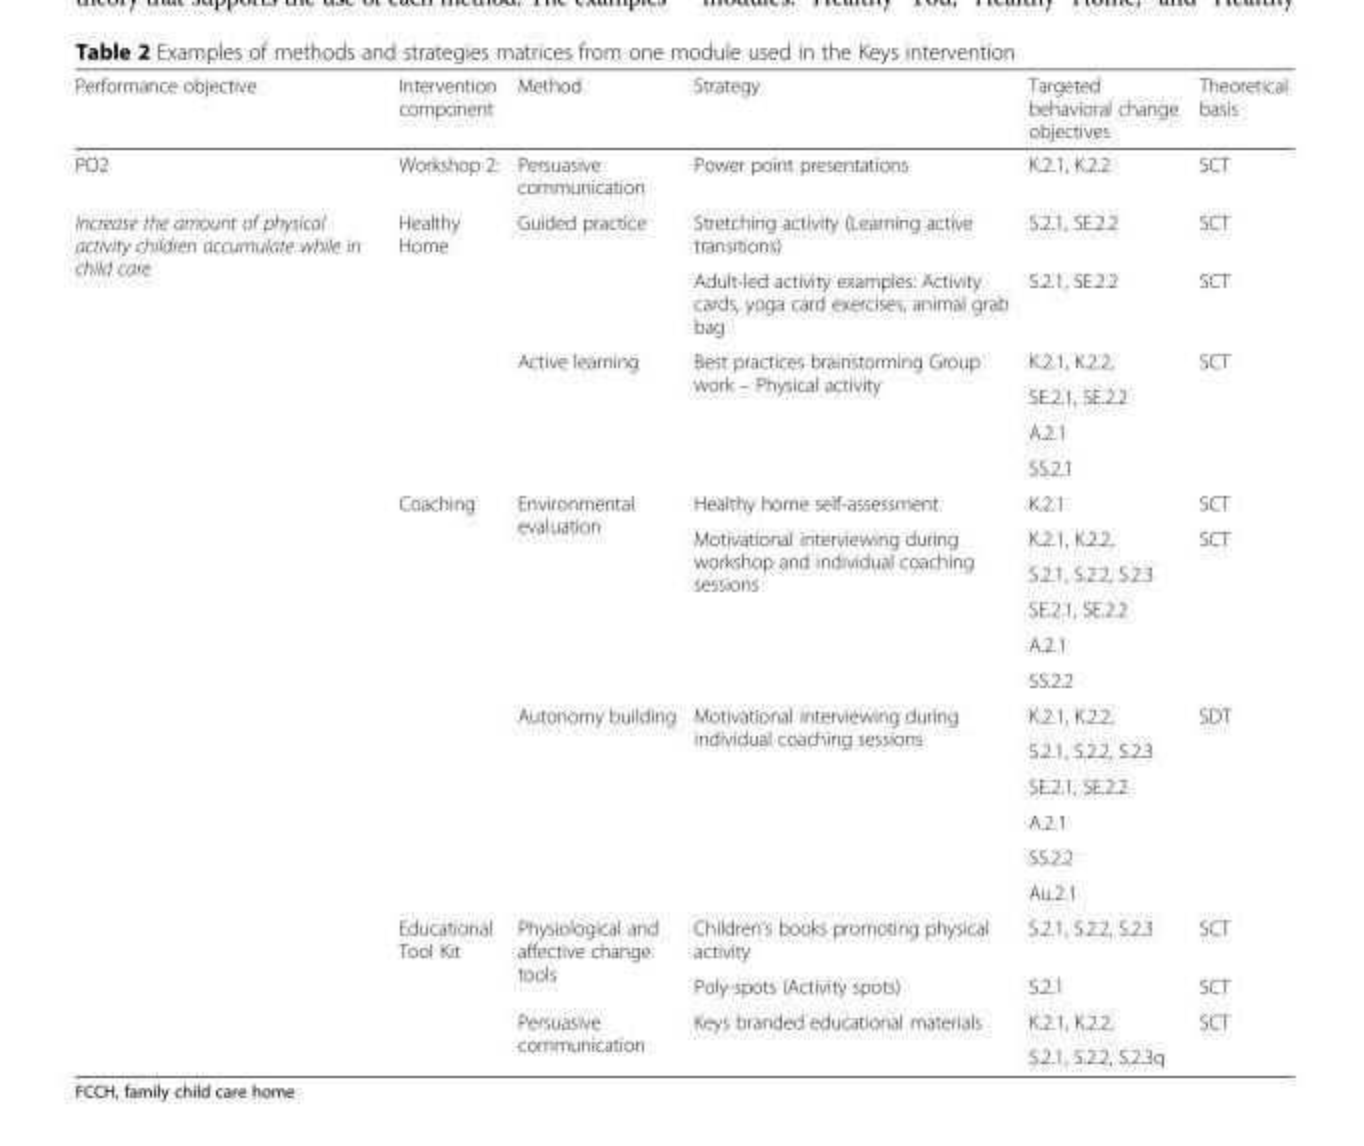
<table><thead><tr><td>Performance objective</td><td>Intervention component</td><td>Method</td><td>Strategy</td><td>Targeted behavioral change objectives</td><td>Theoretical basis</td></tr></thead><tbody><tr><td>PO2</td><td>Workshop 2:</td><td>Persuasive communication</td><td>Power point presentations</td><td>K.2.1, K.2.2</td><td>SCT</td></tr><tr><td rowspan="22">Increase the amount of physical activity children accumulate while in child care</td><td rowspan="6">Healthy Home</td><td rowspan="2">Guided practice</td><td>Stretching activity (Learning active transitions)</td><td>S.2.1, SE.2.2</td><td>SCT</td></tr><tr><td>Adult-led activity examples: Activity cards, yoga card exercises, animal grab bag</td><td>S.2.1, SE.2.2</td><td>SCT</td></tr><tr><td rowspan="4">Active learning</td><td rowspan="4">Best practices brainstorming Group work – Physical activity</td><td>K.2.1, K.2.2,</td><td rowspan="4">SCT</td></tr><tr><td>SE.2.1, SE.2.2</td></tr><tr><td>A.2.1</td></tr><tr><td>SS.2.1</td></tr><tr><td rowspan="12">Coaching</td><td rowspan="6">Environmental evaluation</td><td>Healthy home self-assessment</td><td>K.2.1</td><td>SCT</td></tr><tr><td rowspan="5">Motivational interviewing during workshop and individual coaching sessions</td><td>K.2.1, K.2.2,</td><td rowspan="5">SCT</td></tr><tr><td>S.2.1, S.2.2, S.2.3</td></tr><tr><td>SE.2.1, SE.2.2</td></tr><tr><td>A.2.1</td></tr><tr><td>SS.2.2</td></tr><tr><td rowspan="6">Autonomy building</td><td rowspan="6">Motivational interviewing during individual coaching sessions</td><td>K.2.1, K.2.2,</td><td rowspan="3">SDT</td></tr><tr><td>S.2.1, S.2.2, S.2.3</td></tr><tr><td>SE.2.1, SE.2.2</td></tr><tr><td>A.2.1</td><td rowspan="3"></td></tr><tr><td>SS.2.2</td></tr><tr><td>Au.2.1</td></tr><tr><td rowspan="4">Educational Tool Kit</td><td rowspan="2">Physiological and affective change tools</td><td>Children’s books promoting physical activity</td><td>S.2.1, S.2.2, S.2.3</td><td>SCT</td></tr><tr><td>Poly-spots (Activity spots)</td><td>S.2.1</td><td>SCT</td></tr><tr><td rowspan="2">Persuasive communication</td><td rowspan="2">Keys branded educational materials</td><td>K.2.1, K.2.2,</td><td rowspan="2">SCT</td></tr><tr><td>S.2.1, S.2.2, S.2.3q</td></tr></tbody></table>